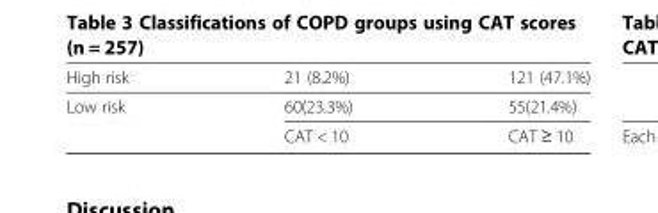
<table><tbody><tr><td>High risk</td><td>21 (8.2%)</td><td>121 (47.1%)</td></tr><tr><td rowspan="2">Low risk</td><td>60(23.3%)</td><td>55(21.4%)</td></tr><tr><td>CAT &lt; 10</td><td>CAT ≥ 10</td></tr></tbody></table>